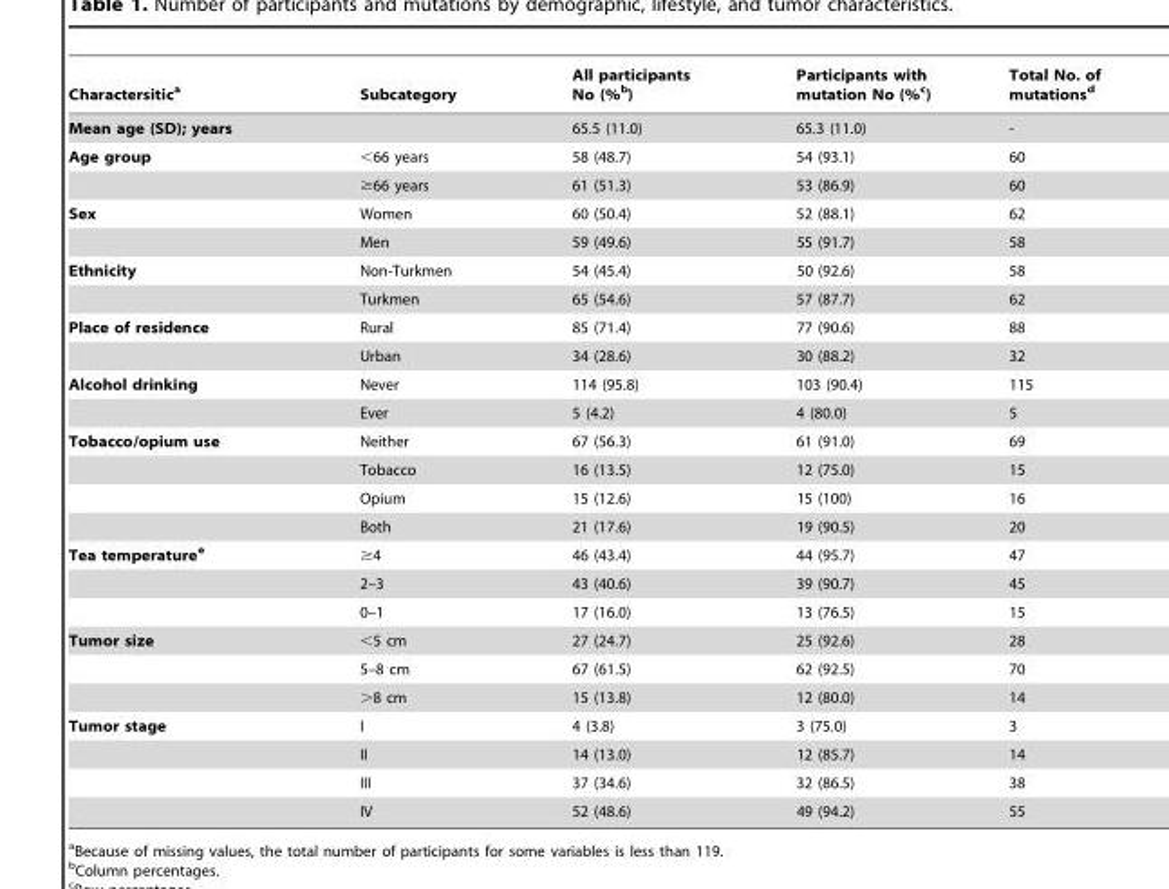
<table><thead><tr><td>Charactersitic<sup>a</sup></td><td>Subcategory</td><td>All participants No (%<sup>b</sup>)</td><td>Participants with mutation No (%<sup>c</sup>)</td><td>Total No. of mutations<sup>d</sup></td></tr></thead><tbody><tr><td>Mean age (SD); years</td><td></td><td>65.5 (11.0)</td><td>65.3 (11.0)</td><td>-</td></tr><tr><td rowspan="2">Age group</td><td>&lt;66 years</td><td>58 (48.7)</td><td>54 (93.1)</td><td>60</td></tr><tr><td>≥66 years</td><td>61 (51.3)</td><td>53 (86.9)</td><td>60</td></tr><tr><td rowspan="2">Sex</td><td>Women</td><td>60 (50.4)</td><td>52 (88.1)</td><td>62</td></tr><tr><td>Men</td><td>59 (49.6)</td><td>55 (91.7)</td><td>58</td></tr><tr><td rowspan="2">Ethnicity</td><td>Non-Turkmen</td><td>54 (45.4)</td><td>50 (92.6)</td><td>58</td></tr><tr><td>Turkmen</td><td>65 (54.6)</td><td>57 (87.7)</td><td>62</td></tr><tr><td rowspan="2">Place of residence</td><td>Rural</td><td>85 (71.4)</td><td>77 (90.6)</td><td>88</td></tr><tr><td>Urban</td><td>34 (28.6)</td><td>30 (88.2)</td><td>32</td></tr><tr><td rowspan="2">Alcohol drinking</td><td>Never</td><td>114 (95.8)</td><td>103 (90.4)</td><td>115</td></tr><tr><td>Ever</td><td>5 (4.2)</td><td>4 (80.0)</td><td>5</td></tr><tr><td rowspan="4">Tobacco/opium use</td><td>Neither</td><td>67 (56.3)</td><td>61 (91.0)</td><td>69</td></tr><tr><td>Tobacco</td><td>16 (13.5)</td><td>12 (75.0)</td><td>15</td></tr><tr><td>Opium</td><td>15 (12.6)</td><td>15 (100)</td><td>16</td></tr><tr><td>Both</td><td>21 (17.6)</td><td>19 (90.5)</td><td>20</td></tr><tr><td rowspan="3">Tea temperaturee</td><td>≥4</td><td>46 (43.4)</td><td>44 (95.7)</td><td>47</td></tr><tr><td>2–3</td><td>43 (40.6)</td><td>39 (90.7)</td><td>45</td></tr><tr><td>0–1</td><td>17 (16.0)</td><td>13 (76.5)</td><td>15</td></tr><tr><td rowspan="3">Tumor size</td><td>&lt;5 cm</td><td>27 (24.7)</td><td>25 (92.6)</td><td>28</td></tr><tr><td>5–8 cm</td><td>67 (61.5)</td><td>62 (92.5)</td><td>70</td></tr><tr><td>&gt;8 cm</td><td>15 (13.8)</td><td>12 (80.0)</td><td>14</td></tr><tr><td rowspan="4">Tumor stage</td><td>I</td><td>4 (3.8)</td><td>3 (75.0)</td><td>3</td></tr><tr><td>II</td><td>14 (13.0)</td><td>12 (85.7)</td><td>14</td></tr><tr><td>III</td><td>37 (34.6)</td><td>32 (86.5)</td><td>38</td></tr><tr><td>IV</td><td>52 (48.6)</td><td>49 (94.2)</td><td>55</td></tr></tbody></table>